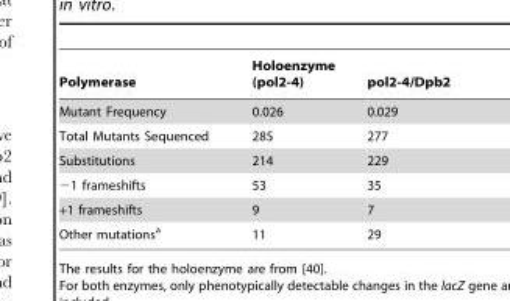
<table><thead><tr><td>Polymerase</td><td>Holoenzyme (pol2-4)</td><td>pol2-4/Dpb2</td></tr></thead><tbody><tr><td>Mutant Frequency</td><td>0.026</td><td>0.029</td></tr><tr><td>Total Mutants Sequenced</td><td>285</td><td>277</td></tr><tr><td>Substitutions</td><td>214</td><td>229</td></tr><tr><td>−1 frameshifts</td><td>53</td><td>35</td></tr><tr><td>+1 frameshifts</td><td>9</td><td>7</td></tr><tr><td>Other mutations<sup>a</sup></td><td>11</td><td>29</td></tr></tbody></table>